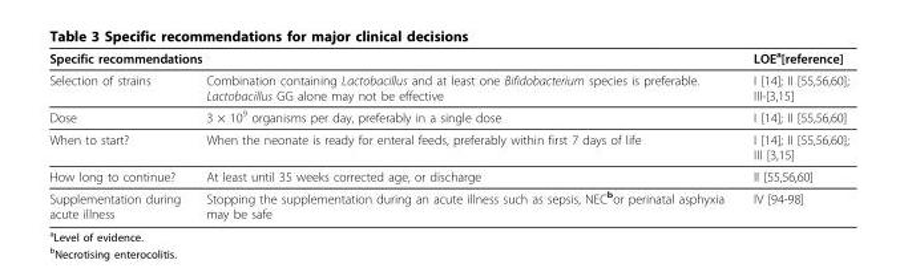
<table><thead><tr><td colspan="2">Specific recommendations</td><td rowspan="2">LOE<sup>a</sup>[reference] I [14]; II [55,56,60]; III-[3,15]</td></tr><tr><td>Selection of strains</td><td>Combination containing Lactobacillus and at least one Bifidobacterium species is preferable. Lactobacillus GG alone may not be effective</td></tr></thead><tbody><tr><td>Dose</td><td>3 × 10<sup>9</sup> organisms per day, preferably in a single dose</td><td>I [14]; II [55,56,60]</td></tr><tr><td>When to start?</td><td>When the neonate is ready for enteral feeds, preferably within first 7 days of life</td><td>I [14]; II [55,56,60]; III [3,15]</td></tr><tr><td>How long to continue?</td><td>At least until 35 weeks corrected age, or discharge</td><td>II [55,56,60]</td></tr><tr><td>Supplementation during acute illness</td><td>Stopping the supplementation during an acute illness such as sepsis, NEC<sup>b</sup>or perinatal asphyxia may be safe</td><td>IV [94-98]</td></tr></tbody></table>